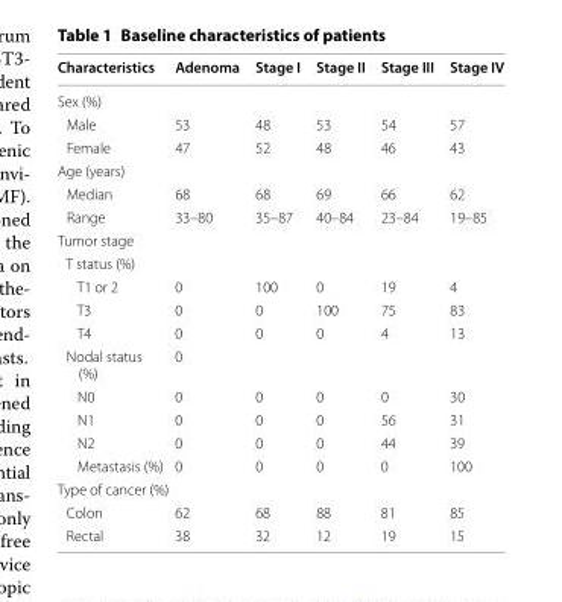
<table><thead><tr><td>Characteristics</td><td>Adenoma</td><td>Stage I</td><td>Stage II</td><td>Stage III</td><td>Stage IV</td></tr></thead><tbody><tr><td colspan="6">Sex (%)</td></tr><tr><td>Male</td><td>53</td><td>48</td><td>53</td><td>54</td><td>57</td></tr><tr><td>Female</td><td>47</td><td>52</td><td>48</td><td>46</td><td>43</td></tr><tr><td colspan="6">Age (years)</td></tr><tr><td>Median</td><td>68</td><td>68</td><td>69</td><td>66</td><td>62</td></tr><tr><td>Range</td><td>33–80</td><td>35–87</td><td>40–84</td><td>23–84</td><td>19–85</td></tr><tr><td colspan="6">Tumor stage</td></tr><tr><td colspan="6">T status (%)</td></tr><tr><td>T1 or 2</td><td>0</td><td>100</td><td>0</td><td>19</td><td>4</td></tr><tr><td>T3</td><td>0</td><td>0</td><td>100</td><td>75</td><td>83</td></tr><tr><td>T4</td><td>0</td><td>0</td><td>0</td><td>4</td><td>13</td></tr><tr><td>Nodal status (%)</td><td>0</td><td></td><td></td><td></td><td></td></tr><tr><td>N0</td><td>0</td><td>0</td><td>0</td><td>0</td><td>30</td></tr><tr><td>N1</td><td>0</td><td>0</td><td>0</td><td>56</td><td>31</td></tr><tr><td>N2</td><td>0</td><td>0</td><td>0</td><td>44</td><td>39</td></tr><tr><td>Metastasis (%)</td><td>0</td><td>0</td><td>0</td><td>0</td><td>100</td></tr><tr><td colspan="6">Type of cancer (%)</td></tr><tr><td>Colon</td><td>62</td><td>68</td><td>88</td><td>81</td><td>85</td></tr><tr><td>Rectal</td><td>38</td><td>32</td><td>12</td><td>19</td><td>15</td></tr></tbody></table>